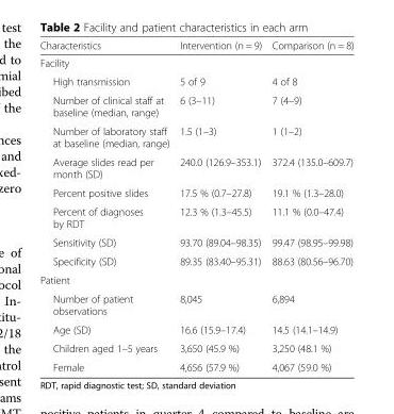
<table><thead><tr><td>Characteristics</td><td>Intervention (n = 9)</td><td>Comparison (n = 8)</td></tr></thead><tbody><tr><td colspan="3">Facility</td></tr><tr><td>High transmission</td><td>5 of 9</td><td>4 of 8</td></tr><tr><td>Number of clinical staff at baseline (median, range)</td><td>6 (3–11)</td><td>7 (4–9)</td></tr><tr><td>Number of laboratory staff at baseline (median, range)</td><td>1.5 (1–3)</td><td>1 (1–2)</td></tr><tr><td>Average slides read per month (SD)</td><td>240.0 (126.9–353.1)</td><td>372.4 (135.0–609.7)</td></tr><tr><td>Percent positive slides</td><td>17.5 % (0.7–27.8)</td><td>19.1 % (1.3–28.0)</td></tr><tr><td>Percent of diagnoses by RDT</td><td>12.3 % (1.3–45.5)</td><td>11.1 % (0.0–47.4)</td></tr><tr><td>Sensitivity (SD)</td><td>93.70 (89.04–98.35)</td><td>99.47 (98.95–99.98)</td></tr><tr><td>Specificity (SD)</td><td>89.35 (83.40–95.31)</td><td>88.63 (80.56–96.70)</td></tr><tr><td colspan="3">Patient</td></tr><tr><td>Number of patient observations</td><td>8,045</td><td>6,894</td></tr><tr><td>Age (SD)</td><td>16.6 (15.9–17.4)</td><td>14.5 (14.1–14.9)</td></tr><tr><td>Children aged 1–5 years</td><td>3,650 (45.9 %)</td><td>3,250 (48.1 %)</td></tr><tr><td>Female</td><td>4,656 (57.9 %)</td><td>4,067 (59.0 %)</td></tr></tbody></table>